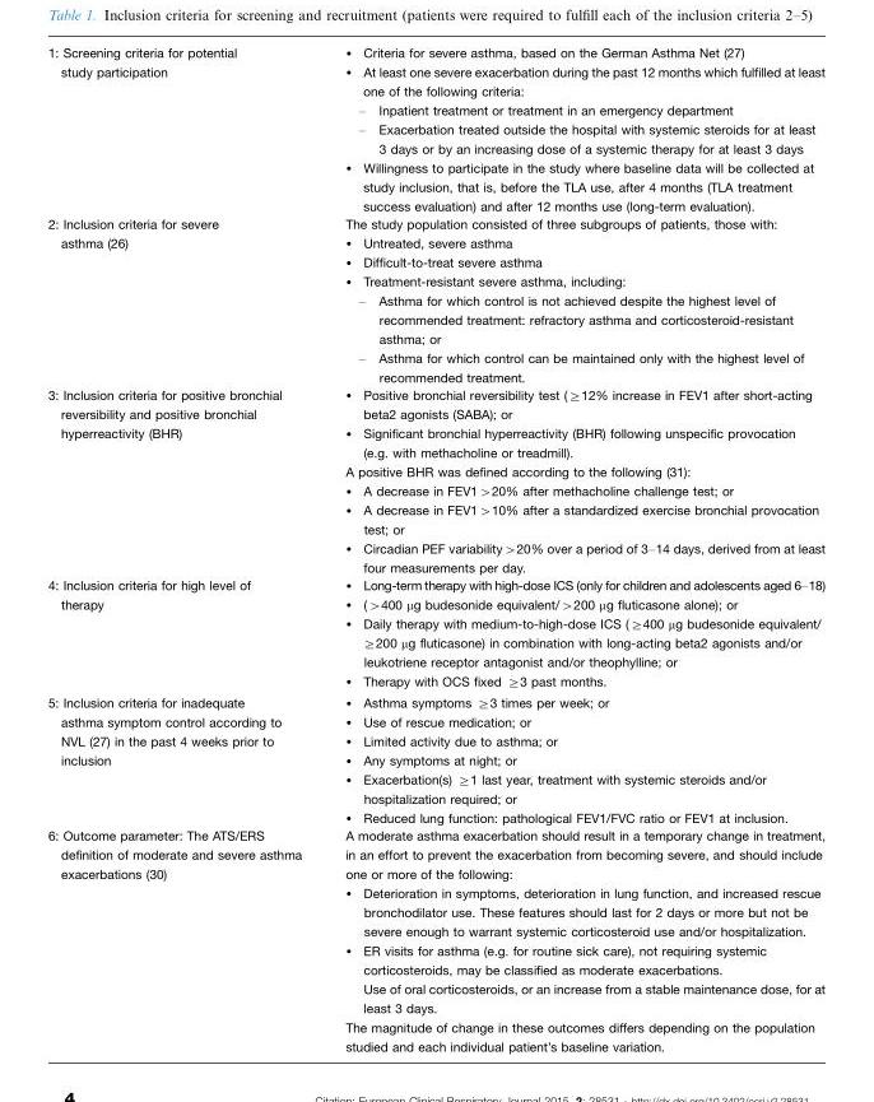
<table><tbody><tr><td>1:</td><td>Screening criteria for potential study participation</td><td>� Criteria for severe asthma, based on the German Asthma Net (27) � At least one severe exacerbation during the past 12 months which fulfilled at least one of the following criteria: � Inpatient treatment or treatment in an emergency department � Exacerbation treated outside the hospital with systemic steroids for at least 3 days or by an increasing dose of a systemic therapy for at least 3 days � Willingness to participate in the study where baseline data will be collected at study inclusion, that is, before the TLA use, after 4 months (TLA treatment success evaluation) and after 12 months use (long-term evaluation).</td></tr><tr><td>2:</td><td>Inclusion criteria for severe asthma (26)</td><td>The study population consisted of three subgroups of patients, those with: � Untreated, severe asthma � Difficult-to-treat severe asthma � Treatment-resistant severe asthma, including: � Asthma for which control is not achieved despite the highest level of recommended treatment: refractory asthma and corticosteroid-resistant asthma; or � Asthma for which control can be maintained only with the highest level of recommended treatment.</td></tr><tr><td>3:</td><td>Inclusion criteria for positive bronchial reversibility and positive bronchial hyperreactivity (BHR)</td><td>� Positive bronchial reversibility test (]12% increase in FEV1 after short-acting beta2 agonists (SABA); or � Significant bronchial hyperreactivity (BHR) following unspecific provocation (e.g. with methacholine or treadmill). A positive BHR was defined according to the following (31): � A decrease in FEV1�20% after methacholine challenge test; or � A decrease in FEV1�10% after a standardized exercise bronchial provocation test; or � Circadian PEF variability�20% over a period of 3�14 days, derived from at least four measurements per day.</td></tr><tr><td>4:</td><td>Inclusion criteria for high level of therapy</td><td>� Long-term therapy with high-dose ICS (only for children and adolescents aged 6�18) � (�400 mg budesonide equivalent/�200 mg fluticasone alone); or � Daily therapy with medium-to-high-dose ICS (]400 mg budesonide equivalent/ ]200 mg fluticasone) in combination with long-acting beta2 agonists and/or leukotriene receptor antagonist and/or theophylline; or � Therapy with OCS fixed ]3 past months.</td></tr><tr><td>5:</td><td>Inclusion criteria for inadequate asthma symptom control according to NVL (27) in the past 4 weeks prior to inclusion</td><td>� Asthma symptoms ]3 times per week; or � Use of rescue medication; or � Limited activity due to asthma; or � Any symptoms at night; or � Exacerbation(s) ]1 last year, treatment with systemic steroids and/or hospitalization required; or � Reduced lung function: pathological FEV1/FVC ratio or FEV1 at inclusion.</td></tr><tr><td>6:</td><td>Outcome parameter: The ATS/ERS definition of moderate and severe asthma exacerbations (30)</td><td>A moderate asthma exacerbation should result in a temporary change in treatment, in an effort to prevent the exacerbation from becoming severe, and should include one or more of the following: � Deterioration in symptoms, deterioration in lung function, and increased rescue bronchodilator use. These features should last for 2 days or more but not be severe enough to warrant systemic corticosteroid use and/or hospitalization. � ER visits for asthma (e.g. for routine sick care), not requiring systemic corticosteroids, may be classified as moderate exacerbations. Use of oral corticosteroids, or an increase from a stable maintenance dose, for at least 3 days. The magnitude of change in these outcomes differs depending on the population studied and each individual patient’s baseline variation.</td></tr></tbody></table>